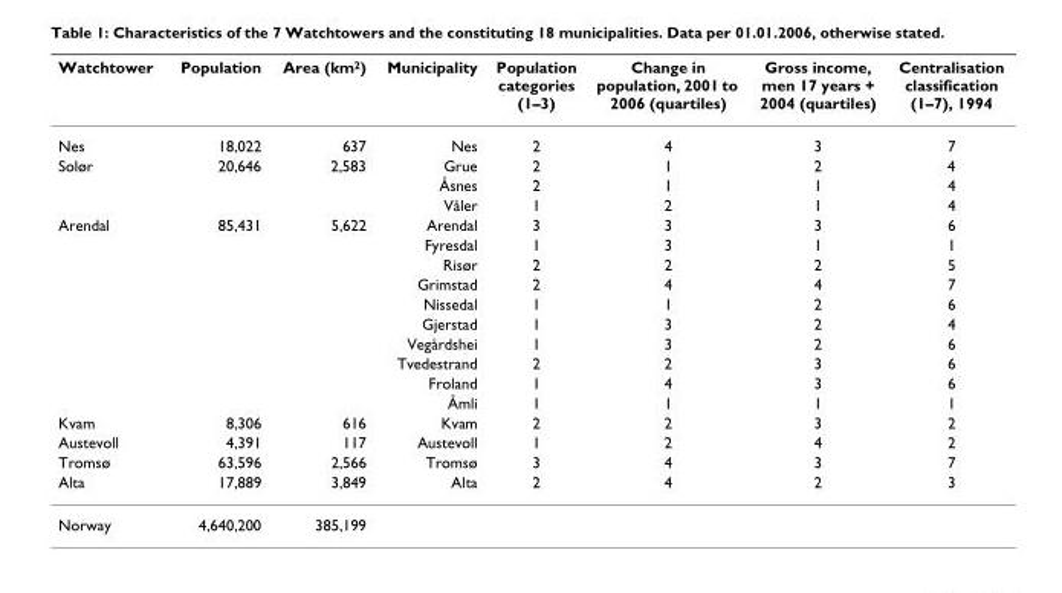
<table><thead><tr><td>Watchtower</td><td>Population</td><td>Area (km<sup>2</sup>)</td><td>Municipality</td><td>Population categories (1–3)</td><td>Change in population, 2001 to 2006 (quartiles)</td><td>Gross income, men 17 years + 2004 (quartiles)</td><td>Centralisation classification (1–7), 1994</td></tr></thead><tbody><tr><td>Nes</td><td>18,022</td><td>637</td><td>Nes</td><td>2</td><td>4</td><td>3</td><td>7</td></tr><tr><td rowspan="3">Solør</td><td>20,646</td><td>2,583</td><td>Grue</td><td>2</td><td>1</td><td>2</td><td>4</td></tr><tr><td></td><td></td><td>Åsnes</td><td>2</td><td>1</td><td>1</td><td>4</td></tr><tr><td></td><td></td><td>Våler</td><td>1</td><td>2</td><td>1</td><td>4</td></tr><tr><td rowspan="10">Arendal</td><td>85,431</td><td>5,622</td><td>Arendal</td><td>3</td><td>3</td><td>3</td><td>6</td></tr><tr><td></td><td></td><td>Fyresdal</td><td>1</td><td>3</td><td>1</td><td>1</td></tr><tr><td></td><td></td><td>Risør</td><td>2</td><td>2</td><td>2</td><td>5</td></tr><tr><td></td><td></td><td>Grimstad</td><td>2</td><td>4</td><td>4</td><td>7</td></tr><tr><td></td><td></td><td>Nissedal</td><td>1</td><td>1</td><td>2</td><td>6</td></tr><tr><td></td><td></td><td>Gjerstad</td><td>1</td><td>3</td><td>2</td><td>4</td></tr><tr><td></td><td></td><td>Vegårdshei</td><td>1</td><td>3</td><td>2</td><td>6</td></tr><tr><td></td><td></td><td>Tvedestrand</td><td>2</td><td>2</td><td>3</td><td>6</td></tr><tr><td></td><td></td><td>Froland</td><td>1</td><td>4</td><td>3</td><td>6</td></tr><tr><td></td><td></td><td>Åmli</td><td>1</td><td>1</td><td>1</td><td>1</td></tr><tr><td>Kvam</td><td>8,306</td><td>616</td><td>Kvam</td><td>2</td><td>2</td><td>3</td><td>2</td></tr><tr><td>Austevoll</td><td>4,391</td><td>117</td><td>Austevoll</td><td>1</td><td>2</td><td>4</td><td>2</td></tr><tr><td>Tromsø</td><td>63,596</td><td>2,566</td><td>Tromsø</td><td>3</td><td>4</td><td>3</td><td>7</td></tr><tr><td>Alta</td><td>17,889</td><td>3,849</td><td>Alta</td><td>2</td><td>4</td><td>2</td><td>3</td></tr><tr><td>Norway</td><td>4,640,200</td><td>385,199</td><td></td><td></td><td></td><td></td><td></td></tr></tbody></table>